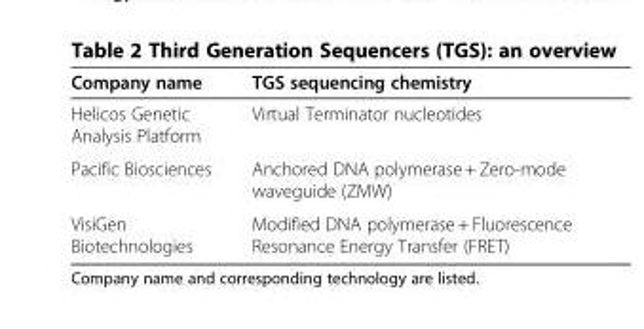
<table><thead><tr><td>Company name</td><td>TGS sequencing chemistry</td></tr></thead><tbody><tr><td>Helicos Genetic Analysis Platform</td><td>Virtual Terminator nucleotides</td></tr><tr><td>Pacific Biosciences</td><td>Anchored DNA polymerase + Zero-mode waveguide (ZMW)</td></tr><tr><td>VisiGen Biotechnologies</td><td>Modified DNA polymerase + Fluorescence Resonance Energy Transfer (FRET)</td></tr></tbody></table>